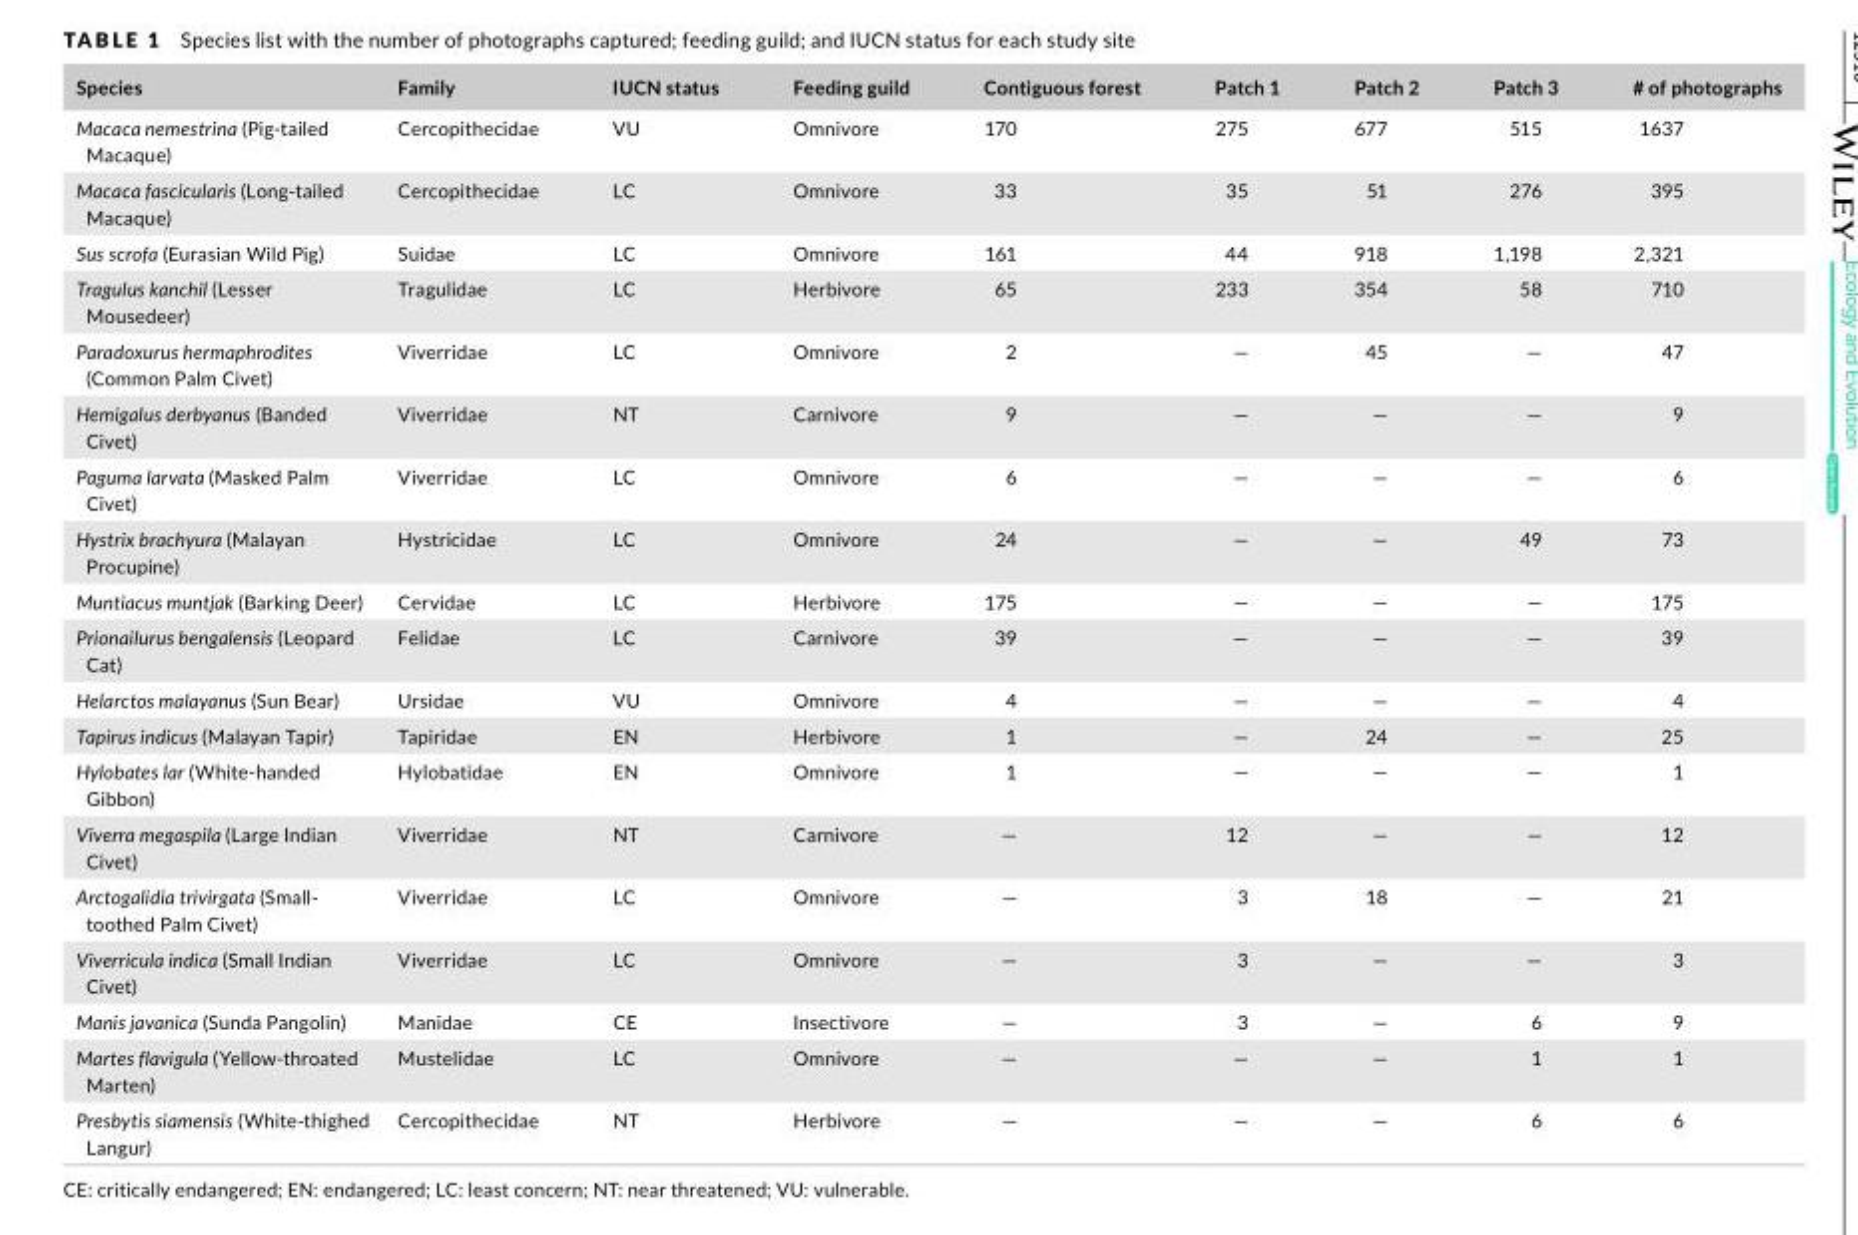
<table><thead><tr><td>Species</td><td>Family</td><td>IUCN status</td><td>Feeding guild</td><td>Contiguous forest</td><td>Patch 1</td><td>Patch 2</td><td>Patch 3</td><td># of photographs</td></tr></thead><tbody><tr><td>Macaca nemestrina (Pig-tailed Macaque)</td><td>Cercopithecidae</td><td>VU</td><td>Omnivore</td><td>170</td><td>275</td><td>677</td><td>515</td><td>1637</td></tr><tr><td>Macaca fascicularis (Long-tailed Macaque)</td><td>Cercopithecidae</td><td>LC</td><td>Omnivore</td><td>33</td><td>35</td><td>51</td><td>276</td><td>395</td></tr><tr><td>Sus scrofa (Eurasian Wild Pig)</td><td>Suidae</td><td>LC</td><td>Omnivore</td><td>161</td><td>44</td><td>918</td><td>1,198</td><td>2,321</td></tr><tr><td>Tragulus kanchil (Lesser Mousedeer)</td><td>Tragulidae</td><td>LC</td><td>Herbivore</td><td>65</td><td>233</td><td>354</td><td>58</td><td>710</td></tr><tr><td>Paradoxurus hermaphrodites (Common Palm Civet)</td><td>Viverridae</td><td>LC</td><td>Omnivore</td><td>2</td><td>—</td><td>45</td><td>—</td><td>47</td></tr><tr><td>Hemigalus derbyanus (Banded Civet)</td><td>Viverridae</td><td>NT</td><td>Carnivore</td><td>9</td><td>—</td><td>—</td><td>—</td><td>9</td></tr><tr><td>Paguma larvata (Masked Palm Civet)</td><td>Viverridae</td><td>LC</td><td>Omnivore</td><td>6</td><td>—</td><td>—</td><td>—</td><td>6</td></tr><tr><td>Hystrix brachyura (Malayan Procupine)</td><td>Hystricidae</td><td>LC</td><td>Omnivore</td><td>24</td><td>—</td><td>—</td><td>49</td><td>73</td></tr><tr><td>Muntiacus muntjak (Barking Deer)</td><td>Cervidae</td><td>LC</td><td>Herbivore</td><td>175</td><td>—</td><td>—</td><td>—</td><td>175</td></tr><tr><td>Prionailurus bengalensis (Leopard Cat)</td><td>Felidae</td><td>LC</td><td>Carnivore</td><td>39</td><td>—</td><td>—</td><td>—</td><td>39</td></tr><tr><td>Helarctos malayanus (Sun Bear)</td><td>Ursidae</td><td>VU</td><td>Omnivore</td><td>4</td><td>—</td><td>—</td><td>—</td><td>4</td></tr><tr><td>Tapirus indicus (Malayan Tapir)</td><td>Tapiridae</td><td>EN</td><td>Herbivore</td><td>1</td><td>—</td><td>24</td><td>—</td><td>25</td></tr><tr><td>Hylobates lar (White-handed Gibbon)</td><td>Hylobatidae</td><td>EN</td><td>Omnivore</td><td>1</td><td>—</td><td>—</td><td>—</td><td>1</td></tr><tr><td>Viverra megaspila (Large Indian Civet)</td><td>Viverridae</td><td>NT</td><td>Carnivore</td><td>—</td><td>12</td><td>—</td><td>—</td><td>12</td></tr><tr><td>Arctogalidia trivirgata (Small- toothed Palm Civet)</td><td>Viverridae</td><td>LC</td><td>Omnivore</td><td>—</td><td>3</td><td>18</td><td>—</td><td>21</td></tr><tr><td>Viverricula indica (Small Indian Civet)</td><td>Viverridae</td><td>LC</td><td>Omnivore</td><td>—</td><td>3</td><td>—</td><td>—</td><td>3</td></tr><tr><td>Manis javanica (Sunda Pangolin)</td><td>Manidae</td><td>CE</td><td>Insectivore</td><td>—</td><td>3</td><td>—</td><td>6</td><td>9</td></tr><tr><td>Martes flavigula (Yellow-throated Marten)</td><td>Mustelidae</td><td>LC</td><td>Omnivore</td><td>—</td><td>—</td><td>—</td><td>1</td><td>1</td></tr><tr><td>Presbytis siamensis (White-thighed Langur)</td><td>Cercopithecidae</td><td>NT</td><td>Herbivore</td><td>—</td><td>—</td><td>—</td><td>6</td><td>6</td></tr></tbody></table>